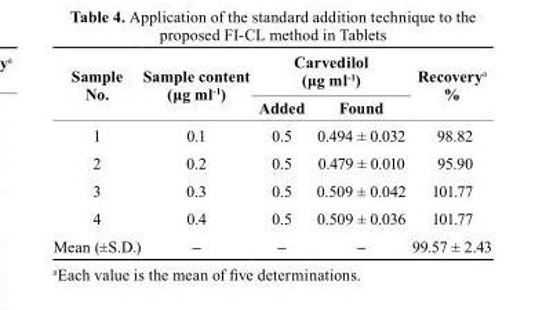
<table><thead><tr><td rowspan="2">sample No.</td><td rowspan="2">sample content (μg ml<sup>-1</sup>)</td><td colspan="2">carvedilol (μg ml<sup>-1</sup>)</td><td rowspan="2">recovery<sup>a</sup> %</td></tr><tr><td>Added</td><td>Found</td></tr></thead><tbody><tr><td>1</td><td>0.1</td><td>0.5</td><td>0.494 ± 0.032</td><td>98.82</td></tr><tr><td>2</td><td>0.2</td><td>0.5</td><td>0.479 ± 0.010</td><td>95.90</td></tr><tr><td>3</td><td>0.3</td><td>0.5</td><td>0.509 ± 0.042</td><td>101.77</td></tr><tr><td>4</td><td>0.4</td><td>0.5</td><td>0.509 ± 0.036</td><td>101.77</td></tr><tr><td>Mean (±S.D.)</td><td>–</td><td>–</td><td>–</td><td>99.57 ± 2.43</td></tr></tbody></table>